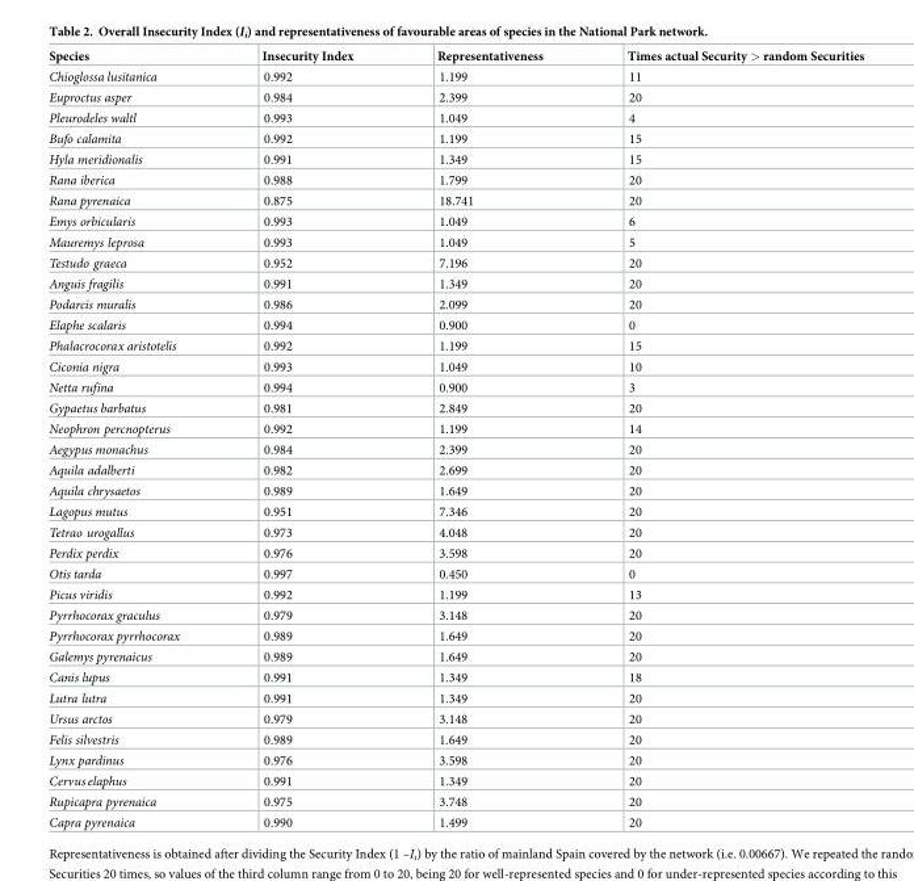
<table><thead><tr><td>Species</td><td>Insecurity Index</td><td>Representativeness</td><td>Times actual Security &gt; random Securities</td></tr></thead><tbody><tr><td>Chioglossa lusitanica</td><td>0.992</td><td>1.199</td><td>11</td></tr><tr><td>Euproctus asper</td><td>0.984</td><td>2.399</td><td>20</td></tr><tr><td>Pleurodeles waltl</td><td>0.993</td><td>1.049</td><td>4</td></tr><tr><td>Bufo calamita</td><td>0.992</td><td>1.199</td><td>15</td></tr><tr><td>Hyla meridionalis</td><td>0.991</td><td>1.349</td><td>15</td></tr><tr><td>Rana iberica</td><td>0.988</td><td>1.799</td><td>20</td></tr><tr><td>Rana pyrenaica</td><td>0.875</td><td>18.741</td><td>20</td></tr><tr><td>Emys orbicularis</td><td>0.993</td><td>1.049</td><td>6</td></tr><tr><td>Mauremys leprosa</td><td>0.993</td><td>1.049</td><td>5</td></tr><tr><td>Testudo graeca</td><td>0.952</td><td>7.196</td><td>20</td></tr><tr><td>Anguis fragilis</td><td>0.991</td><td>1.349</td><td>20</td></tr><tr><td>Podarcis muralis</td><td>0.986</td><td>2.099</td><td>20</td></tr><tr><td>Elaphe scalaris</td><td>0.994</td><td>0.900</td><td>0</td></tr><tr><td>Phalacrocorax aristotelis</td><td>0.992</td><td>1.199</td><td>15</td></tr><tr><td>Ciconia nigra</td><td>0.993</td><td>1.049</td><td>10</td></tr><tr><td>Netta rufina</td><td>0.994</td><td>0.900</td><td>3</td></tr><tr><td>Gypaetus barbatus</td><td>0.981</td><td>2.849</td><td>20</td></tr><tr><td>Neophron percnopterus</td><td>0.992</td><td>1.199</td><td>14</td></tr><tr><td>Aegypus monachus</td><td>0.984</td><td>2.399</td><td>20</td></tr><tr><td>Aquila adalberti</td><td>0.982</td><td>2.699</td><td>20</td></tr><tr><td>Aquila chrysaetos</td><td>0.989</td><td>1.649</td><td>20</td></tr><tr><td>Lagopus mutus</td><td>0.951</td><td>7.346</td><td>20</td></tr><tr><td>Tetrao urogallus</td><td>0.973</td><td>4.048</td><td>20</td></tr><tr><td>Perdix perdix</td><td>0.976</td><td>3.598</td><td>20</td></tr><tr><td>Otis tarda</td><td>0.997</td><td>0.450</td><td>0</td></tr><tr><td>Picus viridis</td><td>0.992</td><td>1.199</td><td>13</td></tr><tr><td>Pyrrhocorax graculus</td><td>0.979</td><td>3.148</td><td>20</td></tr><tr><td>Pyrrhocorax pyrrhocorax</td><td>0.989</td><td>1.649</td><td>20</td></tr><tr><td>Galemys pyrenaicus</td><td>0.989</td><td>1.649</td><td>20</td></tr><tr><td>Canis lupus</td><td>0.991</td><td>1.349</td><td>18</td></tr><tr><td>Lutra lutra</td><td>0.991</td><td>1.349</td><td>20</td></tr><tr><td>Ursus arctos</td><td>0.979</td><td>3.148</td><td>20</td></tr><tr><td>Felis silvestris</td><td>0.989</td><td>1.649</td><td>20</td></tr><tr><td>Lynx pardinus</td><td>0.976</td><td>3.598</td><td>20</td></tr><tr><td>Cervus elaphus</td><td>0.991</td><td>1.349</td><td>20</td></tr><tr><td>Rupicapra pyrenaica</td><td>0.975</td><td>3.748</td><td>20</td></tr><tr><td>Capra pyrenaica</td><td>0.990</td><td>1.499</td><td>20</td></tr></tbody></table>